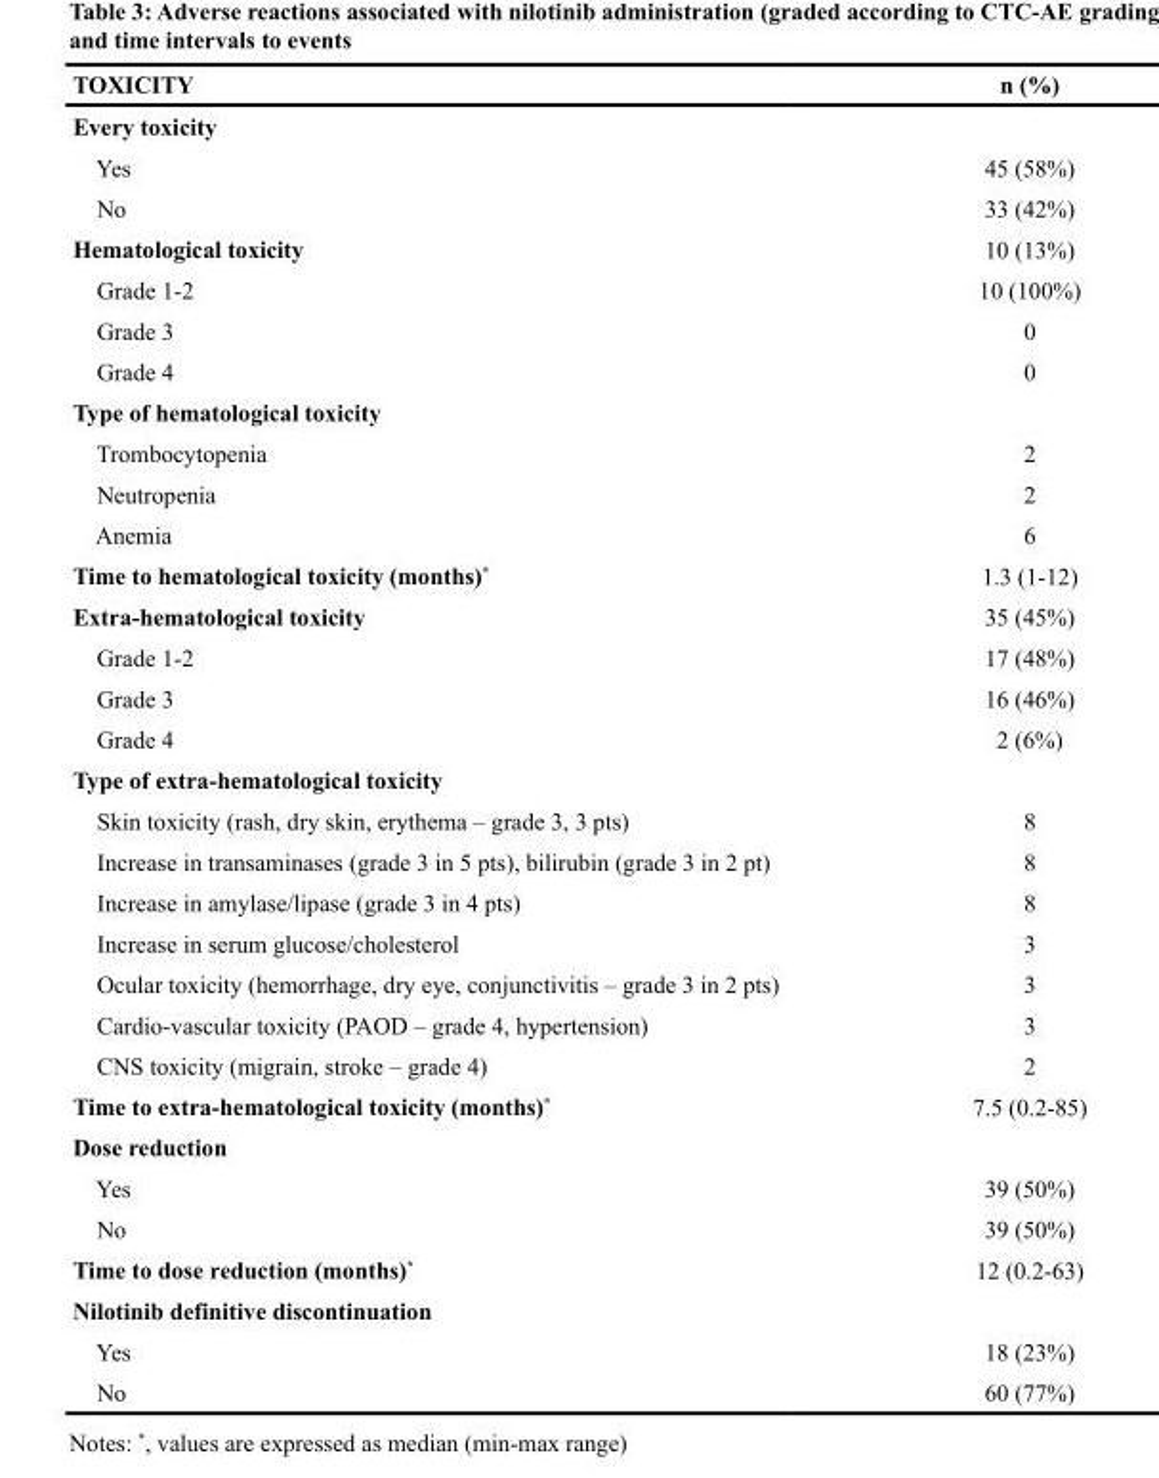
<table><thead><tr><td>TOXICITY</td><td>n (%)</td></tr></thead><tbody><tr><td colspan="2">Every toxicity</td></tr><tr><td>Yes</td><td>45 (58%)</td></tr><tr><td>No</td><td>33 (42%)</td></tr><tr><td>Hematological toxicity</td><td>10 (13%)</td></tr><tr><td>Grade 1-2</td><td>10 (100%)</td></tr><tr><td>Grade 3</td><td>0</td></tr><tr><td>Grade 4</td><td>0</td></tr><tr><td colspan="2">Type of hematological toxicity</td></tr><tr><td>Trombocytopenia</td><td>2</td></tr><tr><td>Neutropenia</td><td>2</td></tr><tr><td>Anemia</td><td>6</td></tr><tr><td>Time to hematological toxicity (months)*</td><td>1.3 (1-12)</td></tr><tr><td>Extra-hematological toxicity</td><td>35 (45%)</td></tr><tr><td>Grade 1-2</td><td>17 (48%)</td></tr><tr><td>Grade 3</td><td>16 (46%)</td></tr><tr><td>Grade 4</td><td>2 (6%)</td></tr><tr><td colspan="2">Type of extra-hematological toxicity</td></tr><tr><td>Skin toxicity (rash, dry skin, erythema – grade 3, 3 pts)</td><td>8</td></tr><tr><td>Increase in transaminases (grade 3 in 5 pts), bilirubin (grade 3 in 2 pt)</td><td>8</td></tr><tr><td>Increase in amylase/lipase (grade 3 in 4 pts)</td><td>8</td></tr><tr><td>Increase in serum glucose/cholesterol</td><td>3</td></tr><tr><td>Ocular toxicity (hemorrhage, dry eye, conjunctivitis – grade 3 in 2 pts)</td><td>3</td></tr><tr><td>Cardio-vascular toxicity (PAOD – grade 4, hypertension)</td><td>3</td></tr><tr><td>CNS toxicity (migrain, stroke – grade 4)</td><td>2</td></tr><tr><td>Time to extra-hematological toxicity (months)*</td><td>7.5 (0.2-85)</td></tr><tr><td colspan="2">Dose reduction</td></tr><tr><td>Yes</td><td>39 (50%)</td></tr><tr><td>No</td><td>39 (50%)</td></tr><tr><td>Time to dose reduction (months)*</td><td>12 (0.2-63)</td></tr><tr><td colspan="2">Nilotinib definitive discontinuation</td></tr><tr><td>Yes</td><td>18 (23%)</td></tr><tr><td>No</td><td>60 (77%)</td></tr></tbody></table>